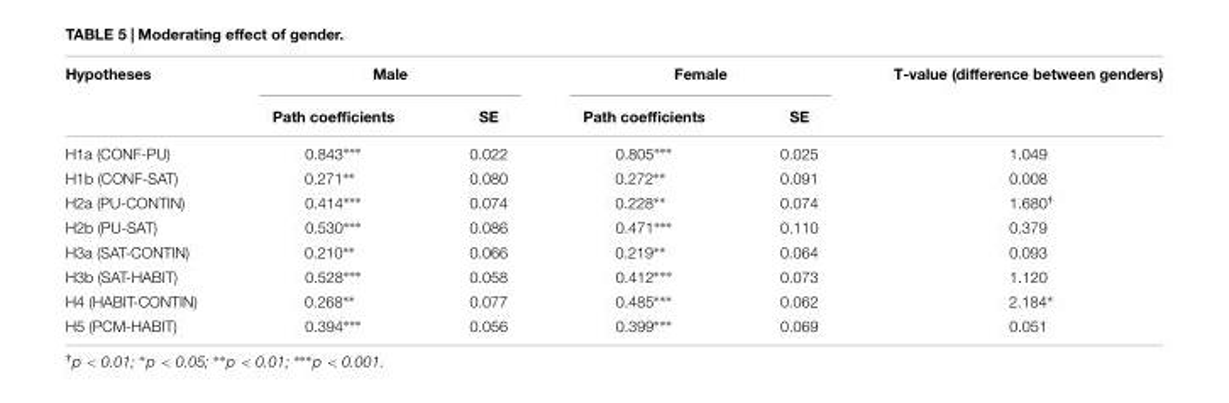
<table><thead><tr><td rowspan="2">Hypotheses</td><td colspan="2">Male</td><td colspan="2">Female</td><td rowspan="2">T-value (difference between genders)</td></tr><tr><td>Path coefficients</td><td>SE</td><td>Path coefficients</td><td>SE</td></tr></thead><tbody><tr><td>H1a (CONF-PU)</td><td>0.843∗∗∗</td><td>0.022</td><td>0.805∗∗∗</td><td>0.025</td><td>1.049</td></tr><tr><td>H1b (CONF-SAT)</td><td>0.271∗∗</td><td>0.080</td><td>0.272∗∗</td><td>0.091</td><td>0.008</td></tr><tr><td>H2a (PU-CONTIN)</td><td>0.414∗∗∗</td><td>0.074</td><td>0.228∗∗</td><td>0.074</td><td>1.680<sup>†</sup></td></tr><tr><td>H2b (PU-SAT)</td><td>0.530∗∗∗</td><td>0.086</td><td>0.471∗∗∗</td><td>0.110</td><td>0.379</td></tr><tr><td>H3a (SAT-CONTIN)</td><td>0.210∗∗</td><td>0.066</td><td>0.219∗∗</td><td>0.064</td><td>0.093</td></tr><tr><td>H3b (SAT-HABIT)</td><td>0.528∗∗∗</td><td>0.058</td><td>0.412∗∗∗</td><td>0.073</td><td>1.120</td></tr><tr><td>H4 (HABIT-CONTIN)</td><td>0.268∗∗</td><td>0.077</td><td>0.485∗∗∗</td><td>0.062</td><td>2.184∗</td></tr><tr><td>H5 (PCM-HABIT)</td><td>0.394∗∗∗</td><td>0.056</td><td>0.399∗∗∗</td><td>0.069</td><td>0.051</td></tr></tbody></table>